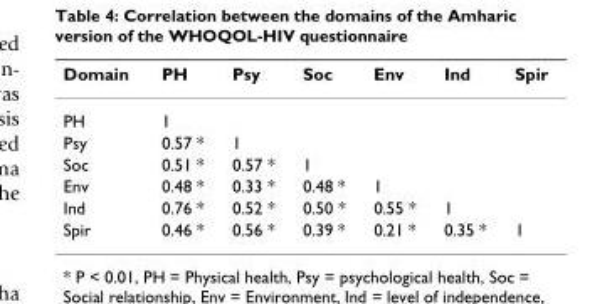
<table><thead><tr><td>Domain</td><td>PH</td><td>Psy</td><td>Soc</td><td>Env</td><td>Ind</td><td>Spir</td></tr></thead><tbody><tr><td>PH</td><td>1</td><td></td><td></td><td></td><td></td><td></td></tr><tr><td>Psy</td><td>0.57 *</td><td>1</td><td></td><td></td><td></td><td></td></tr><tr><td>Soc</td><td>0.51 *</td><td>0.57 *</td><td>1</td><td></td><td></td><td></td></tr><tr><td>Env</td><td>0.48 *</td><td>0.33 *</td><td>0.48 *</td><td>1</td><td></td><td></td></tr><tr><td>Ind</td><td>0.76 *</td><td>0.52 *</td><td>0.50 *</td><td>0.55 *</td><td>1</td><td></td></tr><tr><td>Spir</td><td>0.46 *</td><td>0.56 *</td><td>0.39 *</td><td>0.21 *</td><td>0.35 *</td><td>1</td></tr></tbody></table>